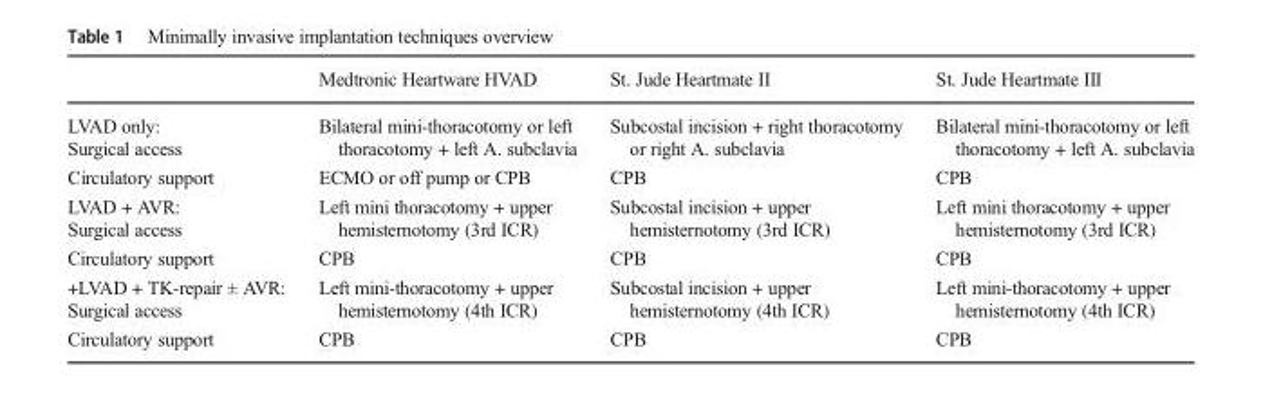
<table><thead><tr><td></td><td>Medtronic Heartware HVAD</td><td>St. Jude Heartmate II</td><td>St. Jude Heartmate III</td></tr></thead><tbody><tr><td>LVAD only: Surgical access</td><td>Bilateral mini-thoracotomy or left thoracotomy + left A. subclavia</td><td>Subcostal incision + right thoracotomy or right A. subclavia</td><td>Bilateral mini-thoracotomy or left thoracotomy + left A. subclavia</td></tr><tr><td>Circulatory support</td><td>ECMO or off pump or CPB</td><td>CPB</td><td>CPB</td></tr><tr><td>LVAD + AVR: Surgical access</td><td>Left mini thoracotomy + upper hemisternotomy (3rd ICR)</td><td>Subcostal incision + upper hemisternotomy (3rd ICR)</td><td>Left mini thoracotomy + upper hemisternotomy (3rd ICR)</td></tr><tr><td>Circulatory support</td><td>CPB</td><td>CPB</td><td>CPB</td></tr><tr><td>+LVAD + TK-repair ± AVR: Surgical access</td><td>Left mini-thoracotomy + upper hemisternotomy (4th ICR)</td><td>Subcostal incision + upper hemisternotomy (4th ICR)</td><td>Left mini-thoracotomy + upper hemisternotomy (4th ICR)</td></tr><tr><td>Circulatory support</td><td>CPB</td><td>CPB</td><td>CPB</td></tr></tbody></table>